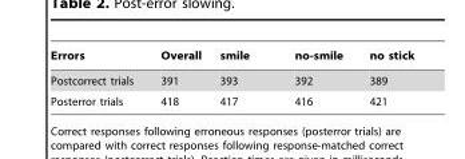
<table><thead><tr><td>Errors</td><td>Overall</td><td>smile</td><td>no-smile</td><td>no stick</td></tr></thead><tbody><tr><td>Postcorrect trials</td><td>391</td><td>393</td><td>392</td><td>389</td></tr><tr><td>Posterror trials</td><td>418</td><td>417</td><td>416</td><td>421</td></tr></tbody></table>